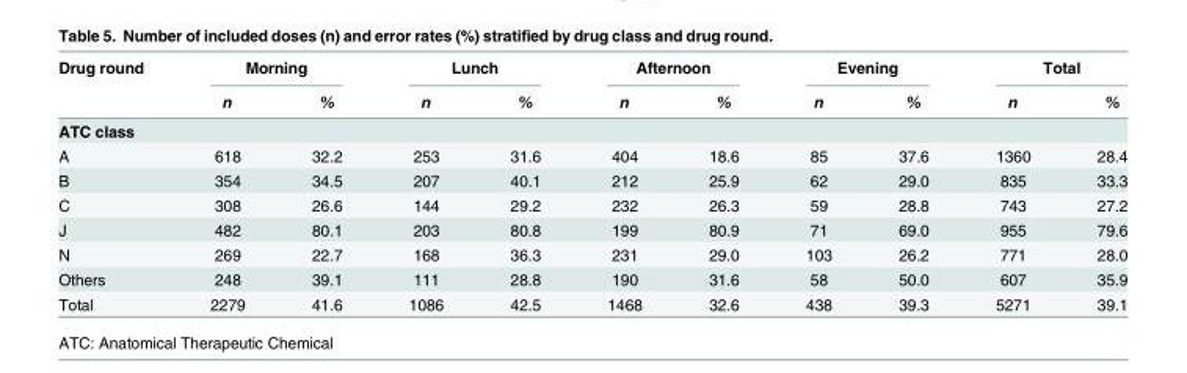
<table><thead><tr><td rowspan="2">Drug round</td><td colspan="2">Morning</td><td colspan="2">Lunch</td><td colspan="2">Afternoon</td><td colspan="2">Evening</td><td colspan="2">Total</td></tr><tr><td>n</td><td>%</td><td>n</td><td>%</td><td>n</td><td>%</td><td>n</td><td>%</td><td>n</td><td>%</td></tr></thead><tbody><tr><td colspan="11">ATC class</td></tr><tr><td>A</td><td>618</td><td>32.2</td><td>253</td><td>31.6</td><td>404</td><td>18.6</td><td>85</td><td>37.6</td><td>1360</td><td>28.4</td></tr><tr><td>B</td><td>354</td><td>34.5</td><td>207</td><td>40.1</td><td>212</td><td>25.9</td><td>62</td><td>29.0</td><td>835</td><td>33.3</td></tr><tr><td>C</td><td>308</td><td>26.6</td><td>144</td><td>29.2</td><td>232</td><td>26.3</td><td>59</td><td>28.8</td><td>743</td><td>27.2</td></tr><tr><td>J</td><td>482</td><td>80.1</td><td>203</td><td>80.8</td><td>199</td><td>80.9</td><td>71</td><td>69.0</td><td>955</td><td>79.6</td></tr><tr><td>N</td><td>269</td><td>22.7</td><td>168</td><td>36.3</td><td>231</td><td>29.0</td><td>103</td><td>26.2</td><td>771</td><td>28.0</td></tr><tr><td>Others</td><td>248</td><td>39.1</td><td>111</td><td>28.8</td><td>190</td><td>31.6</td><td>58</td><td>50.0</td><td>607</td><td>35.9</td></tr><tr><td>Total</td><td>2279</td><td>41.6</td><td>1086</td><td>42.5</td><td>1468</td><td>32.6</td><td>438</td><td>39.3</td><td>5271</td><td>39.1</td></tr></tbody></table>